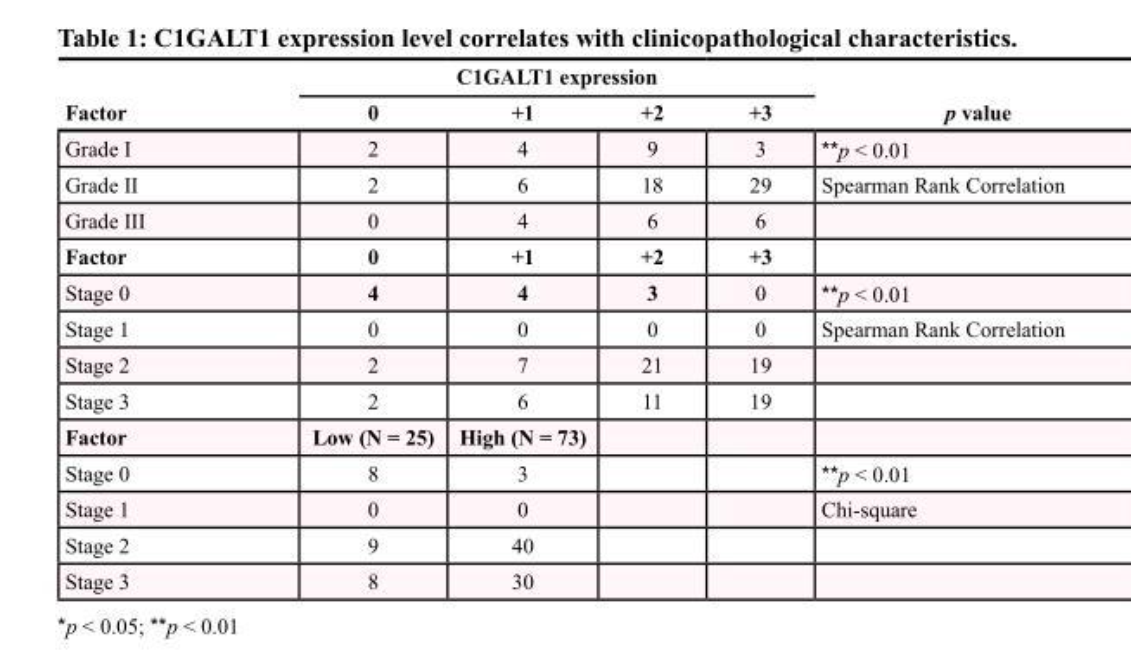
<table><thead><tr><td rowspan="2">Factor</td><td colspan="4">C1GALT1 expression</td><td rowspan="2">p value</td></tr><tr><td>0</td><td>+1</td><td>+2</td><td>+3</td></tr></thead><tbody><tr><td>Grade I</td><td>2</td><td>4</td><td>9</td><td>3</td><td>**p &lt; 0.01</td></tr><tr><td>Grade II</td><td>2</td><td>6</td><td>18</td><td>29</td><td>Spearman Rank Correlation</td></tr><tr><td>Grade III</td><td>0</td><td>4</td><td>6</td><td>6</td><td></td></tr><tr><td>Factor</td><td>0</td><td>+1</td><td>+2</td><td>+3</td><td></td></tr><tr><td>Stage 0</td><td>4</td><td>4</td><td>3</td><td>0</td><td>**p &lt; 0.01</td></tr><tr><td>Stage 1</td><td>0</td><td>0</td><td>0</td><td>0</td><td>Spearman Rank Correlation</td></tr><tr><td>Stage 2</td><td>2</td><td>7</td><td>21</td><td>19</td><td></td></tr><tr><td>Stage 3</td><td>2</td><td>6</td><td>11</td><td>19</td><td></td></tr><tr><td>Factor</td><td>Low (N = 25)</td><td>High (N = 73)</td><td></td><td></td><td></td></tr><tr><td>Stage 0</td><td>8</td><td>3</td><td></td><td></td><td>**p &lt; 0.01</td></tr><tr><td>Stage 1</td><td>0</td><td>0</td><td></td><td></td><td>Chi-square</td></tr><tr><td>Stage 2</td><td>9</td><td>40</td><td></td><td></td><td></td></tr><tr><td>Stage 3</td><td>8</td><td>30</td><td></td><td></td><td></td></tr></tbody></table>